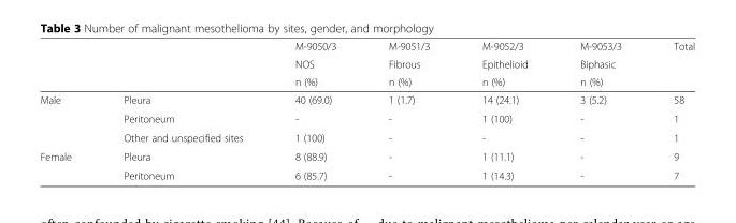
<table><thead><tr><td rowspan="3"></td><td rowspan="3"></td><td rowspan="3">M-9050/3 NOS n (%)</td><td rowspan="3">M-9051/3 Fibrous n (%)</td><td rowspan="3">M-9052/3 Epithelioid n (%)</td><td rowspan="3">M-9053/3 Biphasic n (%)</td><td rowspan="3">Total</td></tr><tr></tr><tr></tr></thead><tbody><tr><td rowspan="3">Male</td><td>Pleura</td><td>40 (69.0)</td><td>1 (1.7)</td><td>14 (24.1)</td><td>3 (5.2)</td><td>58</td></tr><tr><td>Peritoneum</td><td>-</td><td>-</td><td>1 (100)</td><td>-</td><td>1</td></tr><tr><td>Other and unspecified sites</td><td>1 (100)</td><td>-</td><td>-</td><td>-</td><td>1</td></tr><tr><td rowspan="2">Female</td><td>Pleura</td><td>8 (88.9)</td><td>-</td><td>1 (11.1)</td><td>-</td><td>9</td></tr><tr><td>Peritoneum</td><td>6 (85.7)</td><td>-</td><td>1 (14.3)</td><td>-</td><td>7</td></tr></tbody></table>